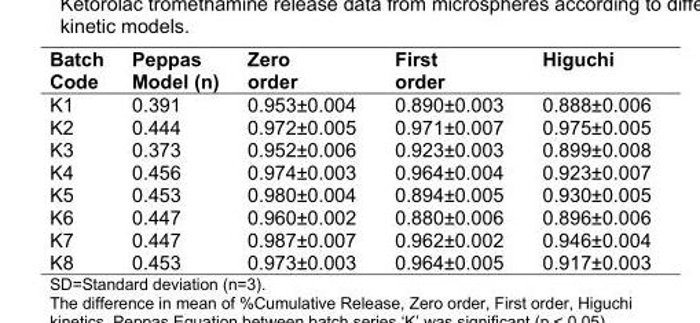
<table><thead><tr><td>Batch Code</td><td>Peppas Model (n)</td><td>Zero order</td><td>First order</td><td>Higuchi</td></tr></thead><tbody><tr><td>K1</td><td>0.391</td><td>0.953±0.004</td><td>0.890±0.003</td><td>0.888±0.006</td></tr><tr><td>K2</td><td>0.444</td><td>0.972±0.005</td><td>0.971±0.007</td><td>0.975±0.005</td></tr><tr><td>K3</td><td>0.373</td><td>0.952±0.006</td><td>0.923±0.003</td><td>0.899±0.008</td></tr><tr><td>K4</td><td>0.456</td><td>0.974±0.003</td><td>0.964±0.004</td><td>0.923±0.007</td></tr><tr><td>K5</td><td>0.453</td><td>0.980±0.004</td><td>0.894±0.005</td><td>0.930±0.005</td></tr><tr><td>K6</td><td>0.447</td><td>0.960±0.002</td><td>0.880±0.006</td><td>0.896±0.006</td></tr><tr><td>K7</td><td>0.447</td><td>0.987±0.007</td><td>0.962±0.002</td><td>0.946±0.004</td></tr><tr><td>K8</td><td>0.453</td><td>0.973±0.003</td><td>0.964±0.005</td><td>0.917±0.003</td></tr></tbody></table>